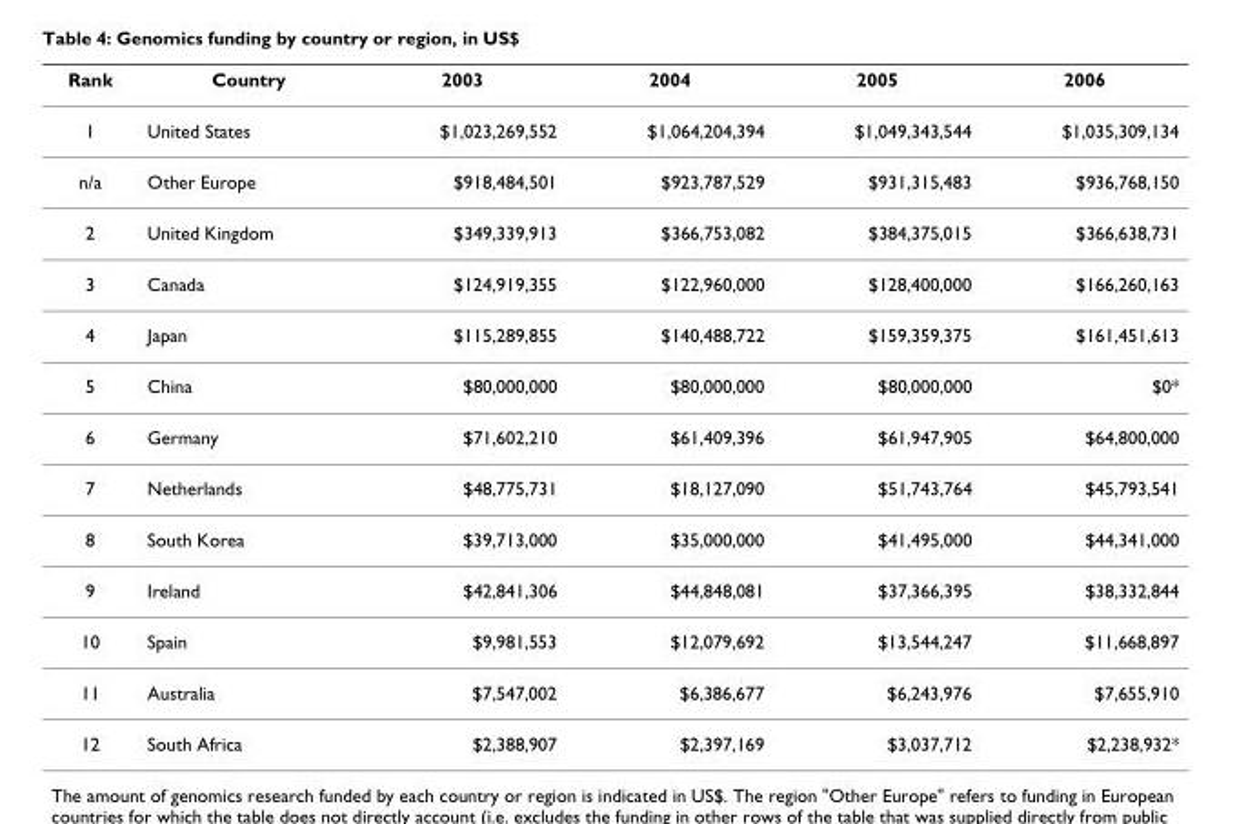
<table><thead><tr><td>Rank</td><td>Country</td><td>2003</td><td>2004</td><td>2005</td><td>2006</td></tr></thead><tbody><tr><td>1</td><td>United States</td><td>$1,023,269,552</td><td>$1,064,204,394</td><td>$1,049,343,544</td><td>$1,035,309,134</td></tr><tr><td>n/a</td><td>Other Europe</td><td>$918,484,501</td><td>$923,787,529</td><td>$931,315,483</td><td>$936,768,150</td></tr><tr><td>2</td><td>United Kingdom</td><td>$349,339,913</td><td>$366,753,082</td><td>$384,375,015</td><td>$366,638,731</td></tr><tr><td>3</td><td>Canada</td><td>$124,919,355</td><td>$122,960,000</td><td>$128,400,000</td><td>$166,260,163</td></tr><tr><td>4</td><td>Japan</td><td>$115,289,855</td><td>$140,488,722</td><td>$159,359,375</td><td>$161,451,613</td></tr><tr><td>5</td><td>China</td><td>$80,000,000</td><td>$80,000,000</td><td>$80,000,000</td><td>$0*</td></tr><tr><td>6</td><td>Germany</td><td>$71,602,210</td><td>$61,409,396</td><td>$61,947,905</td><td>$64,800,000</td></tr><tr><td>7</td><td>Netherlands</td><td>$48,775,731</td><td>$18,127,090</td><td>$51,743,764</td><td>$45,793,541</td></tr><tr><td>8</td><td>South Korea</td><td>$39,713,000</td><td>$35,000,000</td><td>$41,495,000</td><td>$44,341,000</td></tr><tr><td>9</td><td>Ireland</td><td>$42,841,306</td><td>$44,848,081</td><td>$37,366,395</td><td>$38,332,844</td></tr><tr><td>10</td><td>Spain</td><td>$9,981,553</td><td>$12,079,692</td><td>$13,544,247</td><td>$11,668,897</td></tr><tr><td>11</td><td>Australia</td><td>$7,547,002</td><td>$6,386,677</td><td>$6,243,976</td><td>$7,655,910</td></tr><tr><td>12</td><td>South Africa</td><td>$2,388,907</td><td>$2,397,169</td><td>$3,037,712</td><td>$2,238,932*</td></tr></tbody></table>